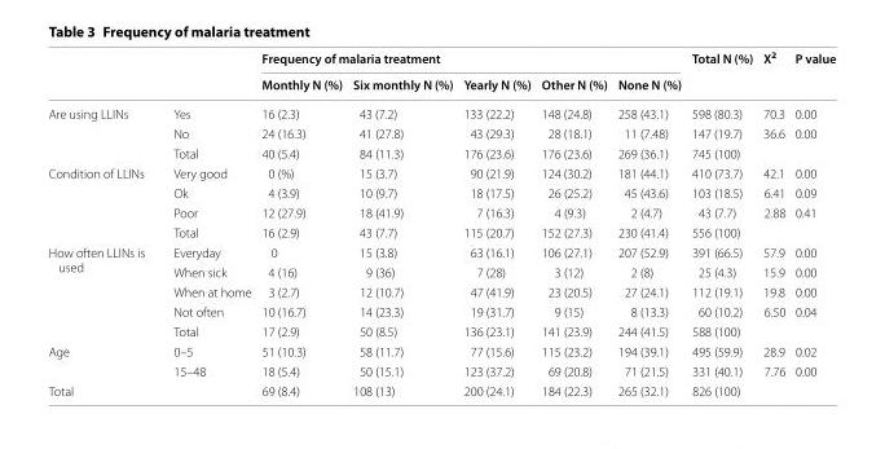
<table><thead><tr><td rowspan="2"></td><td rowspan="2"></td><td colspan="5">Frequency of malaria treatment</td><td rowspan="2">Total N (%)</td><td rowspan="2">X<sup>2</sup></td><td rowspan="2">P value</td></tr><tr><td>Monthly N (%)</td><td>Six monthly N (%)</td><td>Yearly N (%)</td><td>Other N (%)</td><td>None N (%)</td></tr></thead><tbody><tr><td rowspan="3">Are using LLINs</td><td>Yes</td><td>16 (2.3)</td><td>43 (7.2)</td><td>133 (22.2)</td><td>148 (24.8)</td><td>258 (43.1)</td><td>598 (80.3)</td><td>70.3</td><td>0.00</td></tr><tr><td>No</td><td>24 (16.3)</td><td>41 (27.8)</td><td>43 (29.3)</td><td>28 (18.1)</td><td>11 (7.48)</td><td>147 (19.7)</td><td>36.6</td><td>0.00</td></tr><tr><td>Total</td><td>40 (5.4)</td><td>84 (11.3)</td><td>176 (23.6)</td><td>176 (23.6)</td><td>269 (36.1)</td><td>745 (100)</td><td></td><td></td></tr><tr><td rowspan="4">Condition of LLINs</td><td>Very good</td><td>0 (%)</td><td>15 (3.7)</td><td>90 (21.9)</td><td>124 (30.2)</td><td>181 (44.1)</td><td>410 (73.7)</td><td>42.1</td><td>0.00</td></tr><tr><td>Ok</td><td>4 (3.9)</td><td>10 (9.7)</td><td>18 (17.5)</td><td>26 (25.2)</td><td>45 (43.6)</td><td>103 (18.5)</td><td>6.41</td><td>0.09</td></tr><tr><td>Poor</td><td>12 (27.9)</td><td>18 (41.9)</td><td>7 (16.3)</td><td>4 (9.3)</td><td>2 (4.7)</td><td>43 (7.7)</td><td>2.88</td><td>0.41</td></tr><tr><td>Total</td><td>16 (2.9)</td><td>43 (7.7)</td><td>115 (20.7)</td><td>152 (27.3)</td><td>230 (41.4)</td><td>556 (100)</td><td></td><td></td></tr><tr><td rowspan="5">How often LLINs is used</td><td>Everyday</td><td>0</td><td>15 (3.8)</td><td>63 (16.1)</td><td>106 (27.1)</td><td>207 (52.9)</td><td>391 (66.5)</td><td>57.9</td><td>0.00</td></tr><tr><td>When sick</td><td>4 (16)</td><td>9 (36)</td><td>7 (28)</td><td>3 (12)</td><td>2 (8)</td><td>25 (4.3)</td><td>15.9</td><td>0.00</td></tr><tr><td>When at home</td><td>3 (2.7)</td><td>12 (10.7)</td><td>47 (41.9)</td><td>23 (20.5)</td><td>27 (24.1)</td><td>112 (19.1)</td><td>19.8</td><td>0.00</td></tr><tr><td>Not often</td><td>10 (16.7)</td><td>14 (23.3)</td><td>19 (31.7)</td><td>9 (15)</td><td>8 (13.3)</td><td>60 (10.2)</td><td>6.50</td><td>0.04</td></tr><tr><td>Total</td><td>17 (2.9)</td><td>50 (8.5)</td><td>136 (23.1)</td><td>141 (23.9)</td><td>244 (41.5)</td><td>588 (100)</td><td></td><td></td></tr><tr><td rowspan="2">Age</td><td>0–5</td><td>51 (10.3)</td><td>58 (11.7)</td><td>77 (15.6)</td><td>115 (23.2)</td><td>194 (39.1)</td><td>495 (59.9)</td><td>28.9</td><td>0.02</td></tr><tr><td>15–48</td><td>18 (5.4)</td><td>50 (15.1)</td><td>123 (37.2)</td><td>69 (20.8)</td><td>71 (21.5)</td><td>331 (40.1)</td><td>7.76</td><td>0.00</td></tr><tr><td>Total</td><td></td><td>69 (8.4)</td><td>108 (13)</td><td>200 (24.1)</td><td>184 (22.3)</td><td>265 (32.1)</td><td>826 (100)</td><td></td><td></td></tr></tbody></table>